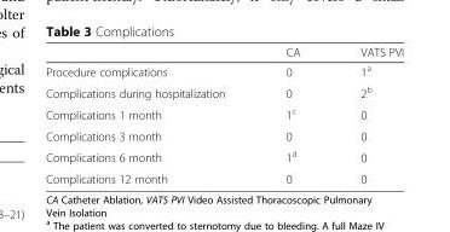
<table><thead><tr><td></td><td>CA</td><td>VATS PVI</td></tr></thead><tbody><tr><td>Procedure complications</td><td>0</td><td>1<sup>a</sup></td></tr><tr><td>Complications during hospitalization</td><td>0</td><td>2<sup>b</sup></td></tr><tr><td>Complications 1 month</td><td>1<sup>c</sup></td><td>0</td></tr><tr><td>Complications 3 month</td><td>0</td><td>0</td></tr><tr><td>Complications 6 month</td><td>1<sup>d</sup></td><td>0</td></tr><tr><td>Complications 12 month</td><td>0</td><td>0</td></tr></tbody></table>